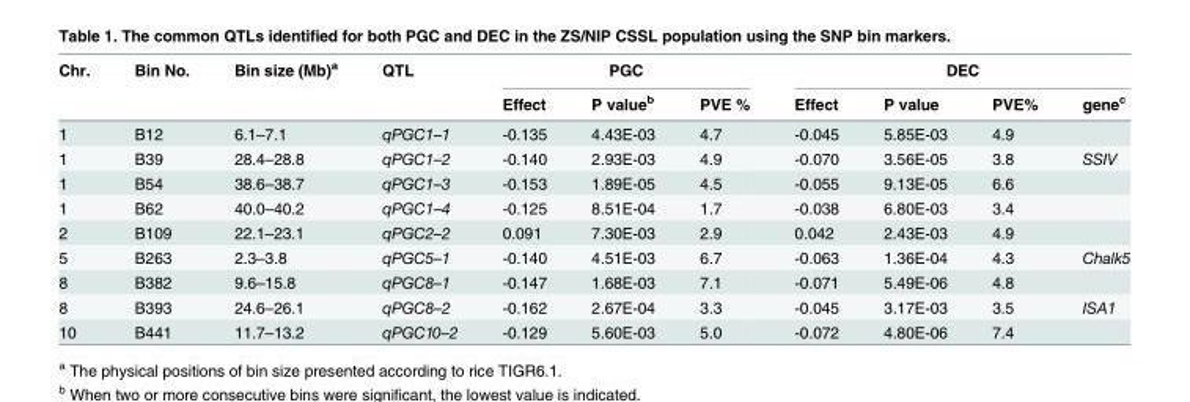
<table><thead><tr><td rowspan="2">Chr.</td><td rowspan="2">Bin No.</td><td rowspan="2">Bin size (Mb)<sup>a</sup></td><td rowspan="2">QTL</td><td colspan="3">PGC</td><td colspan="4">DEC</td></tr><tr><td>Effect</td><td>P value<sup>b</sup></td><td>PVE %</td><td>Effect</td><td>P value</td><td>PVE%</td><td>gene<sup>c</sup></td></tr></thead><tbody><tr><td>1</td><td>B12</td><td>6.1–7.1</td><td>qPGC1–1</td><td>-0.135</td><td>4.43E-03</td><td>4.7</td><td>-0.045</td><td>5.85E-03</td><td>4.9</td><td></td></tr><tr><td>1</td><td>B39</td><td>28.4–28.8</td><td>qPGC1–2</td><td>-0.140</td><td>2.93E-03</td><td>4.9</td><td>-0.070</td><td>3.56E-05</td><td>3.8</td><td>SSIV</td></tr><tr><td>1</td><td>B54</td><td>38.6–38.7</td><td>qPGC1–3</td><td>-0.153</td><td>1.89E-05</td><td>4.5</td><td>-0.055</td><td>9.13E-05</td><td>6.6</td><td></td></tr><tr><td>1</td><td>B62</td><td>40.0–40.2</td><td>qPGC1–4</td><td>-0.125</td><td>8.51E-04</td><td>1.7</td><td>-0.038</td><td>6.80E-03</td><td>3.4</td><td></td></tr><tr><td>2</td><td>B109</td><td>22.1–23.1</td><td>qPGC2–2</td><td>0.091</td><td>7.30E-03</td><td>2.9</td><td>0.042</td><td>2.43E-03</td><td>4.9</td><td></td></tr><tr><td>5</td><td>B263</td><td>2.3–3.8</td><td>qPGC5–1</td><td>-0.140</td><td>4.51E-03</td><td>6.7</td><td>-0.063</td><td>1.36E-04</td><td>4.3</td><td>Chalk5</td></tr><tr><td>8</td><td>B382</td><td>9.6–15.8</td><td>qPGC8–1</td><td>-0.147</td><td>1.68E-03</td><td>7.1</td><td>-0.071</td><td>5.49E-06</td><td>4.8</td><td></td></tr><tr><td>8</td><td>B393</td><td>24.6–26.1</td><td>qPGC8–2</td><td>-0.162</td><td>2.67E-04</td><td>3.3</td><td>-0.045</td><td>3.17E-03</td><td>3.5</td><td>ISA1</td></tr><tr><td>10</td><td>B441</td><td>11.7–13.2</td><td>qPGC10–2</td><td>-0.129</td><td>5.60E-03</td><td>5.0</td><td>-0.072</td><td>4.80E-06</td><td>7.4</td><td></td></tr></tbody></table>